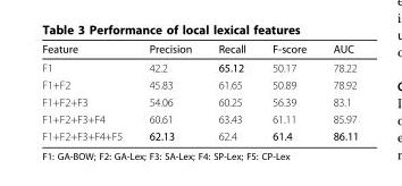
<table><thead><tr><td>Feature</td><td>Precision</td><td>Recall</td><td>F-score</td><td>AUC</td></tr></thead><tbody><tr><td>F1</td><td>42.2</td><td>65.12</td><td>50.17</td><td>78.22</td></tr><tr><td>F1+F2</td><td>45.83</td><td>61.65</td><td>50.89</td><td>78.92</td></tr><tr><td>F1+F2+F3</td><td>54.06</td><td>60.25</td><td>56.39</td><td>83.1</td></tr><tr><td>F1+F2+F3+F4</td><td>60.61</td><td>63.43</td><td>61.11</td><td>85.97</td></tr><tr><td>F1+F2+F3+F4+F5</td><td>62.13</td><td>62.4</td><td>61.4</td><td>86.11</td></tr></tbody></table>